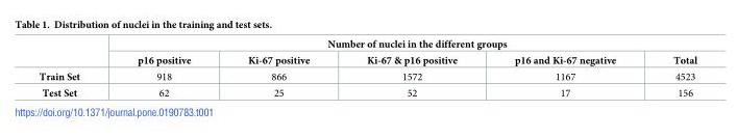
<table><thead><tr><td rowspan="2"></td><td colspan="5">Number of nuclei in the different groups</td></tr><tr><td>p16 positive</td><td>Ki-67 positive</td><td>Ki-67 &amp; p16 positive</td><td>p16 and Ki-67 negative</td><td>Total</td></tr></thead><tbody><tr><td>Train Set</td><td>918</td><td>866</td><td>1572</td><td>1167</td><td>4523</td></tr><tr><td>Test Set</td><td>62</td><td>25</td><td>52</td><td>17</td><td>156</td></tr></tbody></table>